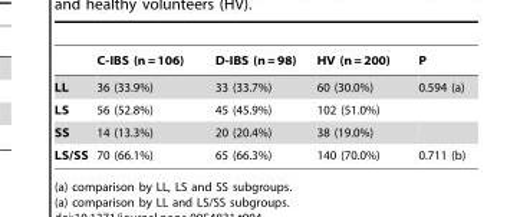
<table><thead><tr><td></td><td>C-IBS (n = 106)</td><td>D-IBS (n = 98)</td><td>HV (n = 200)</td><td>P</td></tr></thead><tbody><tr><td>LL</td><td>36 (33.9%)</td><td>33 (33.7%)</td><td>60 (30.0%)</td><td>0.594 (a)</td></tr><tr><td>LS</td><td>56 (52.8%)</td><td>45 (45.9%)</td><td>102 (51.0%)</td><td></td></tr><tr><td>SS</td><td>14 (13.3%)</td><td>20 (20.4%)</td><td>38 (19.0%)</td><td></td></tr><tr><td>LS/SS</td><td>70 (66.1%)</td><td>65 (66.3%)</td><td>140 (70.0%)</td><td>0.711 (b)</td></tr></tbody></table>